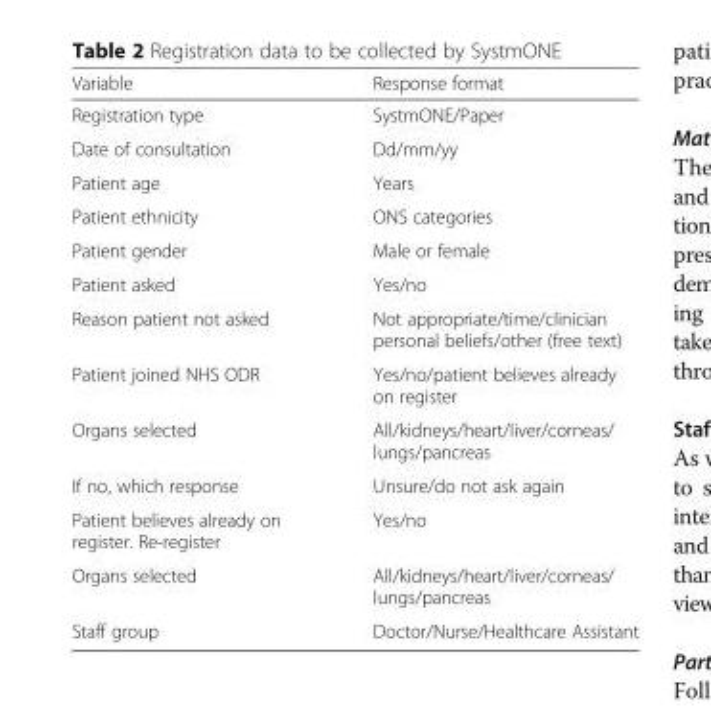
<table><thead><tr><td>Variable</td><td>Response format</td></tr></thead><tbody><tr><td>Registration type</td><td>SystmONE/Paper</td></tr><tr><td>Date of consultation</td><td>Dd/mm/yy</td></tr><tr><td>Patient age</td><td>Years</td></tr><tr><td>Patient ethnicity</td><td>ONS categories</td></tr><tr><td>Patient gender</td><td>Male or female</td></tr><tr><td>Patient asked</td><td>Yes/no</td></tr><tr><td>Reason patient not asked</td><td>Not appropriate/time/clinician personal beliefs/other (free text)</td></tr><tr><td>Patient joined NHS ODR</td><td>Yes/no/patient believes already on register</td></tr><tr><td>Organs selected</td><td>All/kidneys/heart/liver/corneas/ lungs/pancreas</td></tr><tr><td>If no, which response</td><td>Unsure/do not ask again</td></tr><tr><td>Patient believes already on register. Re-register</td><td>Yes/no</td></tr><tr><td>Organs selected</td><td>All/kidneys/heart/liver/corneas/ lungs/pancreas</td></tr><tr><td>Staff group</td><td>Doctor/Nurse/Healthcare Assistant</td></tr></tbody></table>